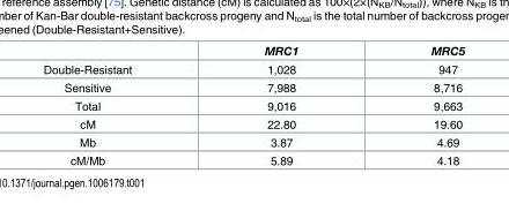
<table><thead><tr><td></td><td>MRC1</td><td>MRC5</td></tr></thead><tbody><tr><td>Double-Resistant</td><td>1,028</td><td>947</td></tr><tr><td>Sensitive</td><td>7,988</td><td>8,716</td></tr><tr><td>Total</td><td>9,016</td><td>9,663</td></tr><tr><td>cM</td><td>22.80</td><td>19.60</td></tr><tr><td>Mb</td><td>3.87</td><td>4.69</td></tr><tr><td>cM/Mb</td><td>5.89</td><td>4.18</td></tr></tbody></table>